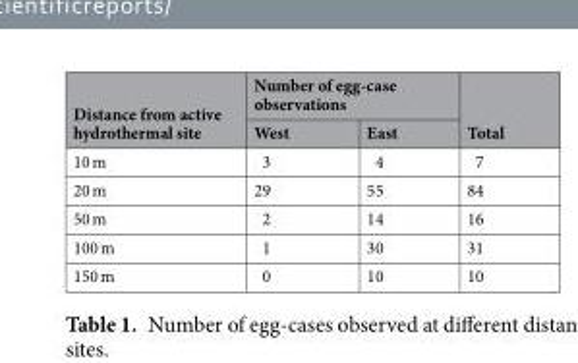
<table><thead><tr><td rowspan="2">Distance from active hydrothermal site</td><td colspan="2">Number of egg-case observations</td><td rowspan="2">Total</td></tr><tr><td>West</td><td>East</td></tr></thead><tbody><tr><td>10 m</td><td>3</td><td>4</td><td>7</td></tr><tr><td>20 m</td><td>29</td><td>55</td><td>84</td></tr><tr><td>50 m</td><td>2</td><td>14</td><td>16</td></tr><tr><td>100 m</td><td>1</td><td>30</td><td>31</td></tr><tr><td>150 m</td><td>0</td><td>10</td><td>10</td></tr></tbody></table>